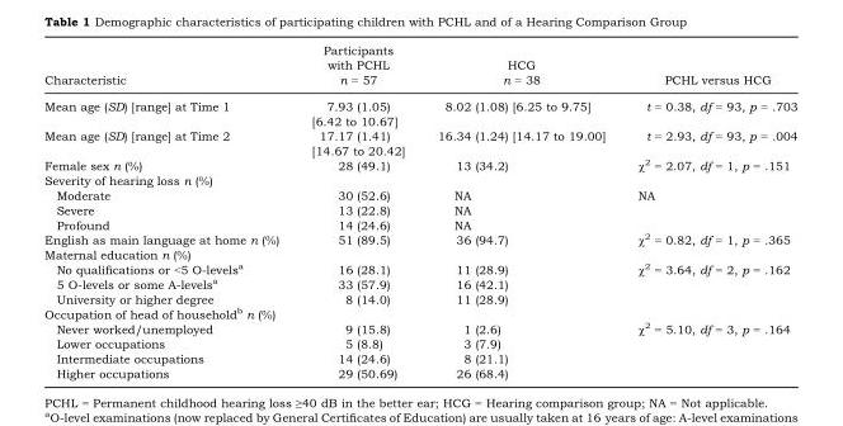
<table><thead><tr><td>Characteristic</td><td>Participants with PCHL n = 57</td><td>HCG n = 38</td><td>PCHL versus HCG</td></tr></thead><tbody><tr><td>Mean age (SD) [range] at Time 1</td><td>7.93 (1.05) [6.42 to 10.67]</td><td>8.02 (1.08) [6.25 to 9.75]</td><td>t = 0.38, df = 93, p = .703</td></tr><tr><td>Mean age (SD) [range] at Time 2</td><td>17.17 (1.41) [14.67 to 20.42]</td><td>16.34 (1.24) [14.17 to 19.00]</td><td>t = 2.93, df = 93, p = .004</td></tr><tr><td>Female sex n (%)</td><td>28 (49.1)</td><td>13 (34.2)</td><td>χ<sup>2</sup> = 2.07, df = 1, p = .151</td></tr><tr><td colspan="4">Severity of hearing loss n (%)</td></tr><tr><td>Moderate</td><td>30 (52.6)</td><td>NA</td><td rowspan="3">NA</td></tr><tr><td>Severe</td><td>13 (22.8)</td><td>NA</td></tr><tr><td>Profound</td><td>14 (24.6)</td><td>NA</td></tr><tr><td>English as main language at home n (%)</td><td>51 (89.5)</td><td>36 (94.7)</td><td>χ<sup>2</sup> = 0.82, df = 1, p = .365</td></tr><tr><td colspan="4">Maternal education n (%)</td></tr><tr><td>No qualifications or &lt;5 O-levels<sup>a</sup></td><td>16 (28.1)</td><td>11 (28.9)</td><td rowspan="3">χ<sup>2</sup> = 3.64, df = 2, p = .162</td></tr><tr><td>5 O-levels or some A-levels<sup>a</sup></td><td>33 (57.9)</td><td>16 (42.1)</td></tr><tr><td>University or higher degree</td><td>8 (14.0)</td><td>11 (28.9)</td></tr><tr><td colspan="4">Occupation of head of household<sup>b</sup> n (%)</td></tr><tr><td>Never worked/unemployed</td><td>9 (15.8)</td><td>1 (2.6)</td><td rowspan="4">χ<sup>2</sup> = 5.10, df = 3, p = .164</td></tr><tr><td>Lower occupations</td><td>5 (8.8)</td><td>3 (7.9)</td></tr><tr><td>Intermediate occupations</td><td>14 (24.6)</td><td>8 (21.1)</td></tr><tr><td>Higher occupations</td><td>29 (50.69)</td><td>26 (68.4)</td></tr></tbody></table>